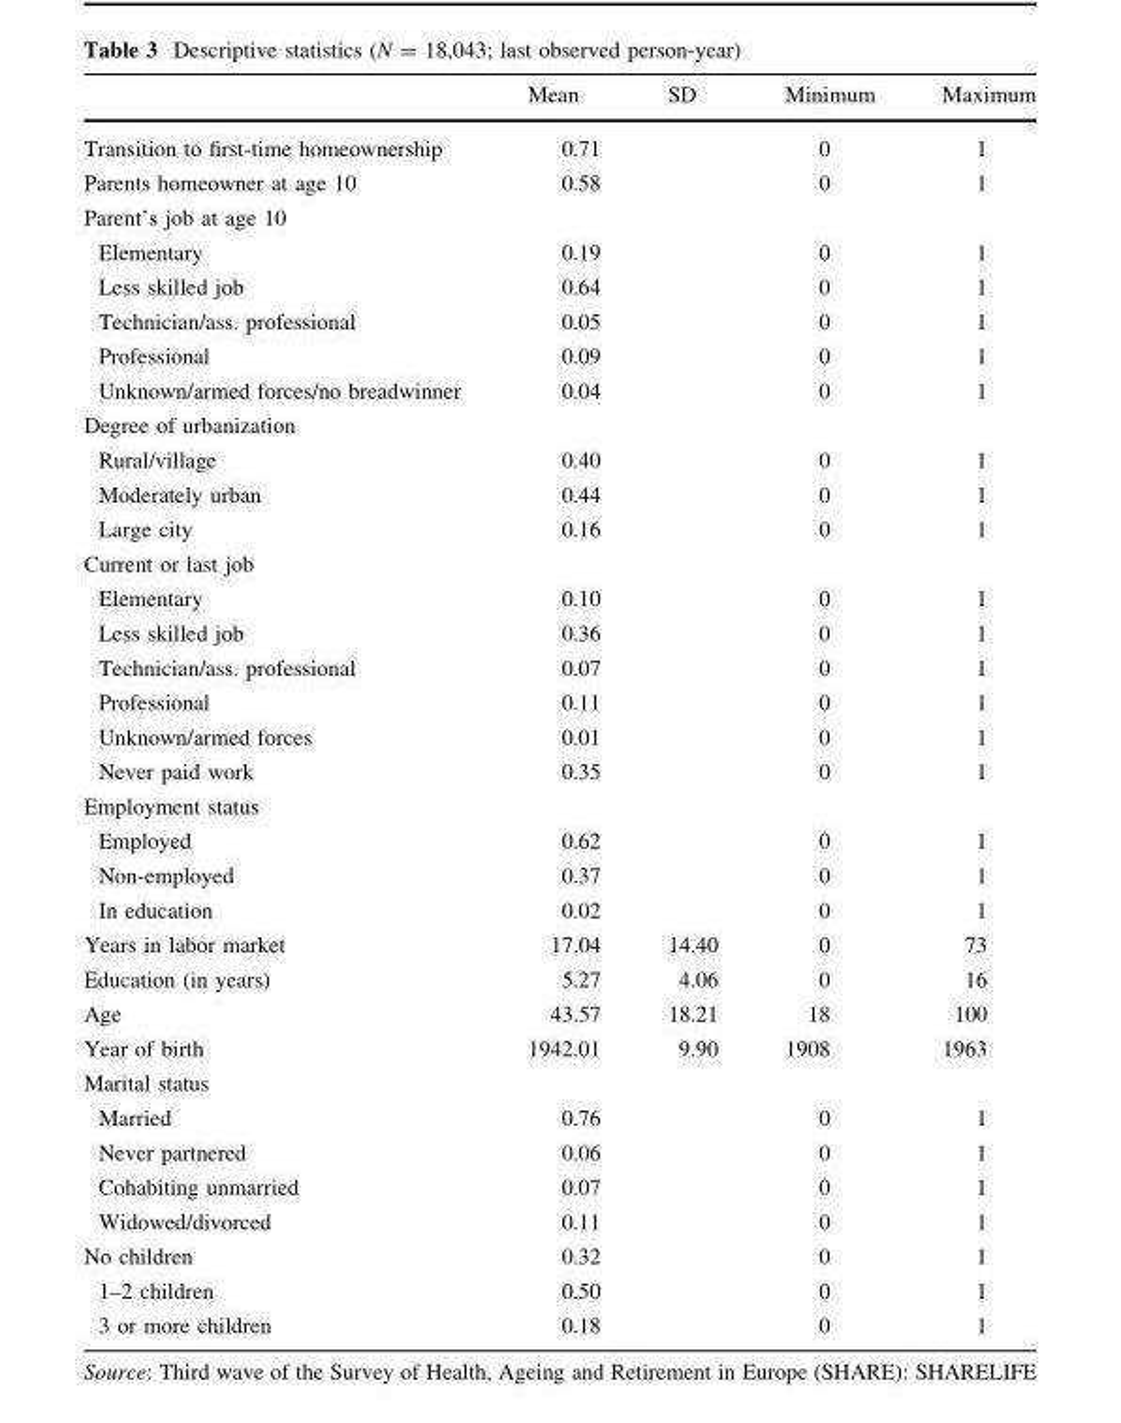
<table><thead><tr><td></td><td>Mean</td><td>SD</td><td>Minimum</td><td>Maximum</td></tr></thead><tbody><tr><td>Transition to first-time homeownership</td><td>0.71</td><td></td><td>0</td><td>1</td></tr><tr><td>Parents homeowner at age 10</td><td>0.58</td><td></td><td>0</td><td>1</td></tr><tr><td colspan="5">Parent’s job at age 10</td></tr><tr><td>Elementary</td><td>0.19</td><td></td><td>0</td><td>1</td></tr><tr><td>Less skilled job</td><td>0.64</td><td></td><td>0</td><td>1</td></tr><tr><td>Technician/ass. professional</td><td>0.05</td><td></td><td>0</td><td>1</td></tr><tr><td>Professional</td><td>0.09</td><td></td><td>0</td><td>1</td></tr><tr><td>Unknown/armed forces/no breadwinner</td><td>0.04</td><td></td><td>0</td><td>1</td></tr><tr><td colspan="5">Degree of urbanization</td></tr><tr><td>Rural/village</td><td>0.40</td><td></td><td>0</td><td>1</td></tr><tr><td>Moderately urban</td><td>0.44</td><td></td><td>0</td><td>1</td></tr><tr><td>Large city</td><td>0.16</td><td></td><td>0</td><td>1</td></tr><tr><td colspan="5">Current or last job</td></tr><tr><td>Elementary</td><td>0.10</td><td></td><td>0</td><td>1</td></tr><tr><td>Less skilled job</td><td>0.36</td><td></td><td>0</td><td>1</td></tr><tr><td>Technician/ass. professional</td><td>0.07</td><td></td><td>0</td><td>1</td></tr><tr><td>Professional</td><td>0.11</td><td></td><td>0</td><td>1</td></tr><tr><td>Unknown/armed forces</td><td>0.01</td><td></td><td>0</td><td>1</td></tr><tr><td>Never paid work</td><td>0.35</td><td></td><td>0</td><td>1</td></tr><tr><td colspan="5">Employment status</td></tr><tr><td>Employed</td><td>0.62</td><td></td><td>0</td><td>1</td></tr><tr><td>Non-employed</td><td>0.37</td><td></td><td>0</td><td>1</td></tr><tr><td>In education</td><td>0.02</td><td></td><td>0</td><td>1</td></tr><tr><td>Years in labor market</td><td>17.04</td><td>14.40</td><td>0</td><td>73</td></tr><tr><td>Education (in years)</td><td>5.27</td><td>4.06</td><td>0</td><td>16</td></tr><tr><td>Age</td><td>43.57</td><td>18.21</td><td>18</td><td>100</td></tr><tr><td>Year of birth</td><td>1942.01</td><td>9.90</td><td>1908</td><td>1963</td></tr><tr><td colspan="5">Marital status</td></tr><tr><td>Married</td><td>0.76</td><td></td><td>0</td><td>1</td></tr><tr><td>Never partnered</td><td>0.06</td><td></td><td>0</td><td>1</td></tr><tr><td>Cohabiting unmarried</td><td>0.07</td><td></td><td>0</td><td>1</td></tr><tr><td>Widowed/divorced</td><td>0.11</td><td></td><td>0</td><td>1</td></tr><tr><td>No children</td><td>0.32</td><td></td><td>0</td><td>1</td></tr><tr><td>1–2 children</td><td>0.50</td><td></td><td>0</td><td>1</td></tr><tr><td>3 or more children</td><td>0.18</td><td></td><td>0</td><td>1</td></tr></tbody></table>